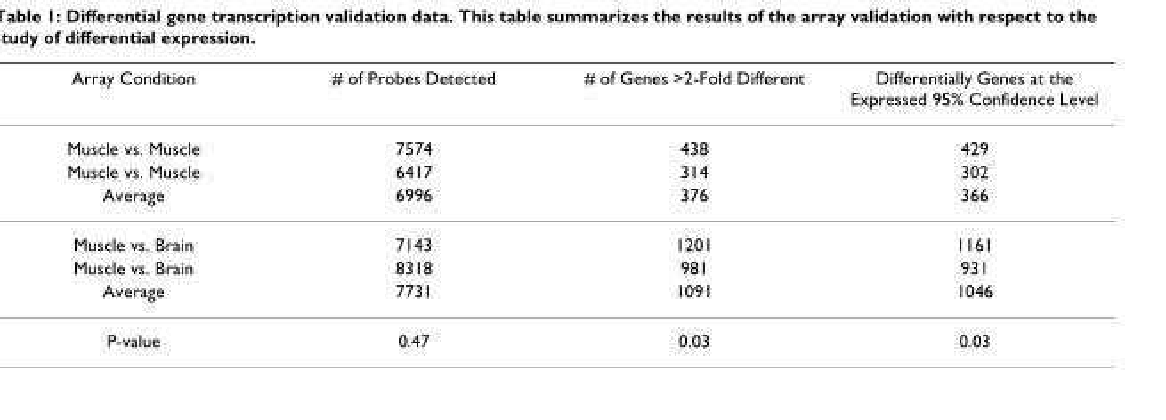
<table><thead><tr><td>Array Condition</td><td># of Probes Detected</td><td># of Genes &gt;2-Fold Different</td><td>Differentially Genes at the Expressed 95% Confidence Level</td></tr></thead><tbody><tr><td>Muscle vs. Muscle</td><td>7574</td><td>438</td><td>429</td></tr><tr><td>Muscle vs. Muscle</td><td>6417</td><td>314</td><td>302</td></tr><tr><td>Average</td><td>6996</td><td>376</td><td>366</td></tr><tr><td>Muscle vs. Brain</td><td>7143</td><td>1201</td><td>1161</td></tr><tr><td>Muscle vs. Brain</td><td>8318</td><td>981</td><td>931</td></tr><tr><td>Average</td><td>7731</td><td>1091</td><td>1046</td></tr><tr><td>P-value</td><td>0.47</td><td>0.03</td><td>0.03</td></tr></tbody></table>